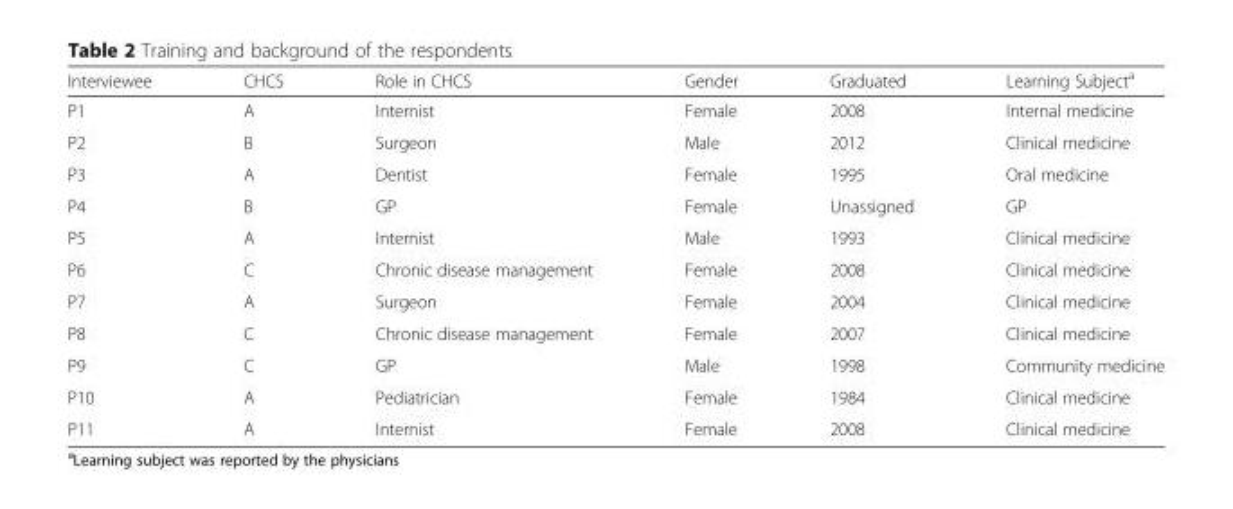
<table><thead><tr><td>Interviewee</td><td>CHCS</td><td>Role in CHCS</td><td>Gender</td><td>Graduated</td><td>Learning Subject<sup>a</sup></td></tr></thead><tbody><tr><td>P1</td><td>A</td><td>Internist</td><td>Female</td><td>2008</td><td>Internal medicine</td></tr><tr><td>P2</td><td>B</td><td>Surgeon</td><td>Male</td><td>2012</td><td>Clinical medicine</td></tr><tr><td>P3</td><td>A</td><td>Dentist</td><td>Female</td><td>1995</td><td>Oral medicine</td></tr><tr><td>P4</td><td>B</td><td>GP</td><td>Female</td><td>Unassigned</td><td>GP</td></tr><tr><td>P5</td><td>A</td><td>Internist</td><td>Male</td><td>1993</td><td>Clinical medicine</td></tr><tr><td>P6</td><td>C</td><td>Chronic disease management</td><td>Female</td><td>2008</td><td>Clinical medicine</td></tr><tr><td>P7</td><td>A</td><td>Surgeon</td><td>Female</td><td>2004</td><td>Clinical medicine</td></tr><tr><td>P8</td><td>C</td><td>Chronic disease management</td><td>Female</td><td>2007</td><td>Clinical medicine</td></tr><tr><td>P9</td><td>C</td><td>GP</td><td>Male</td><td>1998</td><td>Community medicine</td></tr><tr><td>P10</td><td>A</td><td>Pediatrician</td><td>Female</td><td>1984</td><td>Clinical medicine</td></tr><tr><td>P11</td><td>A</td><td>Internist</td><td>Female</td><td>2008</td><td>Clinical medicine</td></tr></tbody></table>